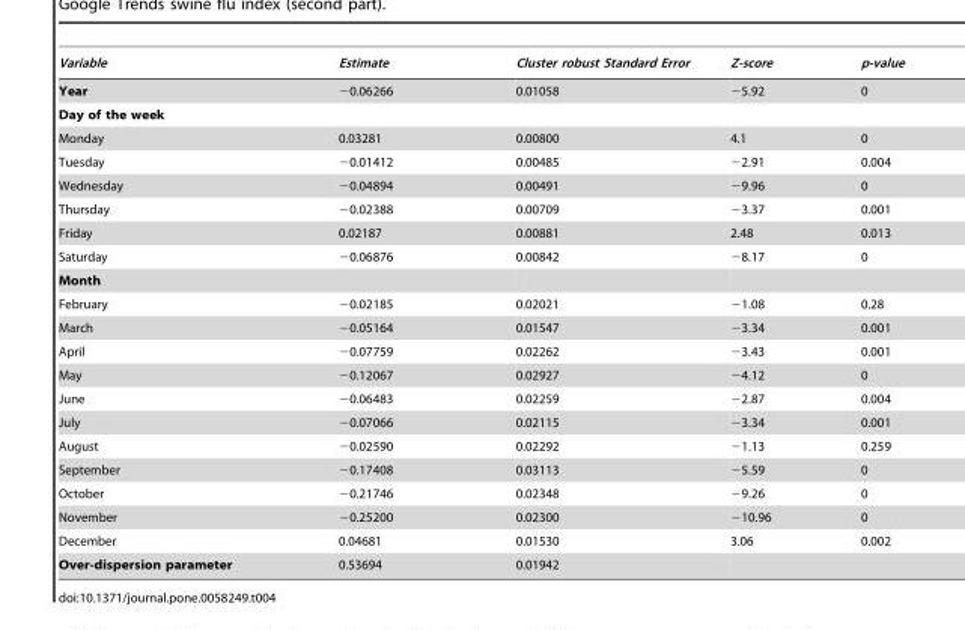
<table><thead><tr><td>Variable</td><td>Estimate</td><td>Cluster robust Standard Error</td><td>Z-score</td><td>p-value</td></tr></thead><tbody><tr><td>Year</td><td>−0.06266</td><td>0.01058</td><td>−5.92</td><td>0</td></tr><tr><td colspan="5">Day of the week</td></tr><tr><td>Monday</td><td>0.03281</td><td>0.00800</td><td>4.1</td><td>0</td></tr><tr><td>Tuesday</td><td>−0.01412</td><td>0.00485</td><td>−2.91</td><td>0.004</td></tr><tr><td>Wednesday</td><td>−0.04894</td><td>0.00491</td><td>−9.96</td><td>0</td></tr><tr><td>Thursday</td><td>−0.02388</td><td>0.00709</td><td>−3.37</td><td>0.001</td></tr><tr><td>Friday</td><td>0.02187</td><td>0.00881</td><td>2.48</td><td>0.013</td></tr><tr><td>Saturday</td><td>−0.06876</td><td>0.00842</td><td>−8.17</td><td>0</td></tr><tr><td colspan="5">Month</td></tr><tr><td>February</td><td>−0.02185</td><td>0.02021</td><td>−1.08</td><td>0.28</td></tr><tr><td>March</td><td>−0.05164</td><td>0.01547</td><td>−3.34</td><td>0.001</td></tr><tr><td>April</td><td>−0.07759</td><td>0.02262</td><td>−3.43</td><td>0.001</td></tr><tr><td>May</td><td>−0.12067</td><td>0.02927</td><td>−4.12</td><td>0</td></tr><tr><td>June</td><td>−0.06483</td><td>0.02259</td><td>−2.87</td><td>0.004</td></tr><tr><td>July</td><td>−0.07066</td><td>0.02115</td><td>−3.34</td><td>0.001</td></tr><tr><td>August</td><td>−0.02590</td><td>0.02292</td><td>−1.13</td><td>0.259</td></tr><tr><td>September</td><td>−0.17408</td><td>0.03113</td><td>−5.59</td><td>0</td></tr><tr><td>October</td><td>−0.21746</td><td>0.02348</td><td>−9.26</td><td>0</td></tr><tr><td>November</td><td>−0.25200</td><td>0.02300</td><td>−10.96</td><td>0</td></tr><tr><td>December</td><td>0.04681</td><td>0.01530</td><td>3.06</td><td>0.002</td></tr><tr><td>Over-dispersion parameter</td><td>0.53694</td><td>0.01942</td><td></td><td></td></tr></tbody></table>